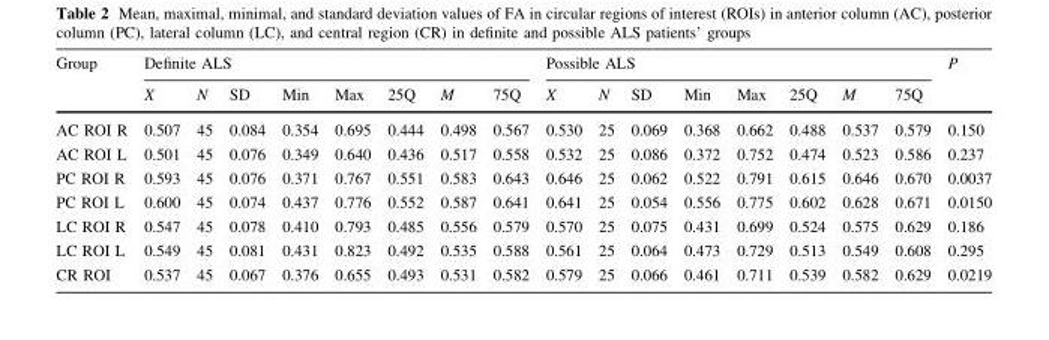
<table><thead><tr><td rowspan="2">Group</td><td colspan="8">Definite ALS</td><td colspan="8">Possible ALS</td><td rowspan="2">P</td></tr><tr><td>X</td><td>N</td><td>SD</td><td>Min</td><td>Max</td><td>25Q</td><td>M</td><td>75Q</td><td>X</td><td>N</td><td>SD</td><td>Min</td><td>Max</td><td>25Q</td><td>M</td><td>75Q</td></tr></thead><tbody><tr><td>AC ROI R</td><td>0.507</td><td>45</td><td>0.084</td><td>0.354</td><td>0.695</td><td>0.444</td><td>0.498</td><td>0.567</td><td>0.530</td><td>25</td><td>0.069</td><td>0.368</td><td>0.662</td><td>0.488</td><td>0.537</td><td>0.579</td><td>0.150</td></tr><tr><td>AC ROI L</td><td>0.501</td><td>45</td><td>0.076</td><td>0.349</td><td>0.640</td><td>0.436</td><td>0.517</td><td>0.558</td><td>0.532</td><td>25</td><td>0.086</td><td>0.372</td><td>0.752</td><td>0.474</td><td>0.523</td><td>0.586</td><td>0.237</td></tr><tr><td>PC ROI R</td><td>0.593</td><td>45</td><td>0.076</td><td>0.371</td><td>0.767</td><td>0.551</td><td>0.583</td><td>0.643</td><td>0.646</td><td>25</td><td>0.062</td><td>0.522</td><td>0.791</td><td>0.615</td><td>0.646</td><td>0.670</td><td>0.0037</td></tr><tr><td>PC ROI L</td><td>0.600</td><td>45</td><td>0.074</td><td>0.437</td><td>0.776</td><td>0.552</td><td>0.587</td><td>0.641</td><td>0.641</td><td>25</td><td>0.054</td><td>0.556</td><td>0.775</td><td>0.602</td><td>0.628</td><td>0.671</td><td>0.0150</td></tr><tr><td>LC ROI R</td><td>0.547</td><td>45</td><td>0.078</td><td>0.410</td><td>0.793</td><td>0.485</td><td>0.556</td><td>0.579</td><td>0.570</td><td>25</td><td>0.075</td><td>0.431</td><td>0.699</td><td>0.524</td><td>0.575</td><td>0.629</td><td>0.186</td></tr><tr><td>LC ROI L</td><td>0.549</td><td>45</td><td>0.081</td><td>0.431</td><td>0.823</td><td>0.492</td><td>0.535</td><td>0.588</td><td>0.561</td><td>25</td><td>0.064</td><td>0.473</td><td>0.729</td><td>0.513</td><td>0.549</td><td>0.608</td><td>0.295</td></tr><tr><td>CR ROI</td><td>0.537</td><td>45</td><td>0.067</td><td>0.376</td><td>0.655</td><td>0.493</td><td>0.531</td><td>0.582</td><td>0.579</td><td>25</td><td>0.066</td><td>0.461</td><td>0.711</td><td>0.539</td><td>0.582</td><td>0.629</td><td>0.0219</td></tr></tbody></table>